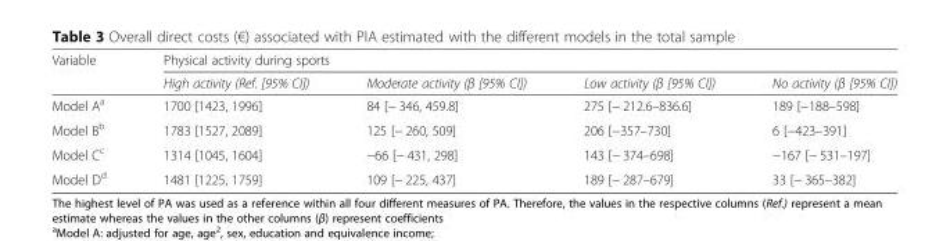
<table><thead><tr><td rowspan="2">Variable</td><td colspan="4">Physical activity during sports</td></tr><tr><td>High activity (Ref. [95% CI])</td><td>Moderate activity (β [95% CI])</td><td>Low activity (β [95% CI])</td><td>No activity (β [95% CI])</td></tr></thead><tbody><tr><td>Model A<sup>a</sup></td><td>1700 [1423, 1996]</td><td>84 [− 346, 459.8]</td><td>275 [− 212.6–836.6]</td><td>189 [−188–598]</td></tr><tr><td>Model B<sup>b</sup></td><td>1783 [1527, 2089]</td><td>125 [− 260, 509]</td><td>206 [−357–730]</td><td>6 [−423–391]</td></tr><tr><td>Model C<sup>c</sup></td><td>1314 [1045, 1604]</td><td>−66 [− 431, 298]</td><td>143 [− 374–698]</td><td>−167 [− 531–197]</td></tr><tr><td>Model D<sup>d</sup></td><td>1481 [1225, 1759]</td><td>109 [− 225, 437]</td><td>189 [− 287–679]</td><td>33 [− 365–382]</td></tr></tbody></table>